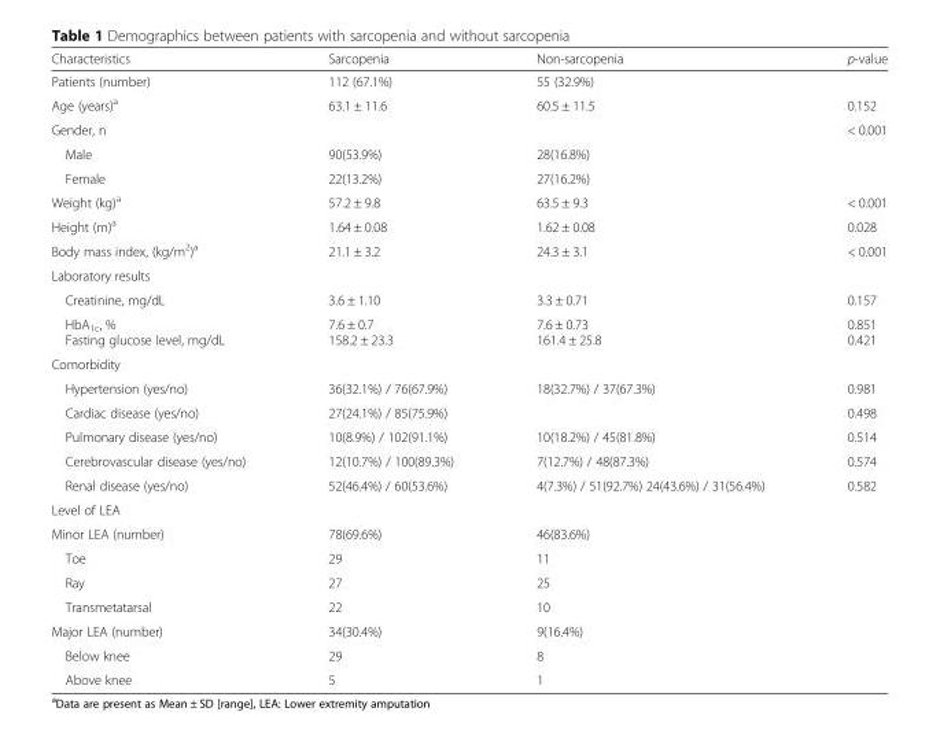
<table><thead><tr><td>Characteristics</td><td>Sarcopenia</td><td>Non-sarcopenia</td><td>p-value</td></tr></thead><tbody><tr><td>Patients (number)</td><td>112 (67.1%)</td><td>55 (32.9%)</td><td></td></tr><tr><td>Age (years)<sup>a</sup></td><td>63.1 ± 11.6</td><td>60.5 ± 11.5</td><td>0.152</td></tr><tr><td>Gender, n</td><td></td><td></td><td>&lt; 0.001</td></tr><tr><td>Male</td><td>90(53.9%)</td><td>28(16.8%)</td><td></td></tr><tr><td>Female</td><td>22(13.2%)</td><td>27(16.2%)</td><td></td></tr><tr><td>Weight (kg)<sup>a</sup></td><td>57.2 ± 9.8</td><td>63.5 ± 9.3</td><td>&lt; 0.001</td></tr><tr><td>Height (m)<sup>a</sup></td><td>1.64 ± 0.08</td><td>1.62 ± 0.08</td><td>0.028</td></tr><tr><td>Body mass index, (kg/m<sup>2</sup>)<sup>a</sup></td><td>21.1 ± 3.2</td><td>24.3 ± 3.1</td><td>&lt; 0.001</td></tr><tr><td colspan="4">Laboratory results</td></tr><tr><td>Creatinine, mg/dL</td><td>3.6 ± 1.10</td><td>3.3 ± 0.71</td><td>0.157</td></tr><tr><td>HbA<sub>1c</sub>, % Fasting glucose level, mg/dL</td><td>7.6 ± 0.7 158.2 ± 23.3</td><td>7.6 ± 0.73 161.4 ± 25.8</td><td>0.851 0.421</td></tr><tr><td colspan="4">Comorbidity</td></tr><tr><td>Hypertension (yes/no)</td><td>36(32.1%) / 76(67.9%)</td><td>18(32.7%) / 37(67.3%)</td><td>0.981</td></tr><tr><td>Cardiac disease (yes/no)</td><td>27(24.1%) / 85(75.9%)</td><td></td><td>0.498</td></tr><tr><td>Pulmonary disease (yes/no)</td><td>10(8.9%) / 102(91.1%)</td><td>10(18.2%) / 45(81.8%)</td><td>0.514</td></tr><tr><td>Cerebrovascular disease (yes/no)</td><td>12(10.7%) / 100(89.3%)</td><td>7(12.7%) / 48(87.3%)</td><td>0.574</td></tr><tr><td>Renal disease (yes/no)</td><td>52(46.4%) / 60(53.6%)</td><td>4(7.3%) / 51(92.7%) 24(43.6%) / 31(56.4%)</td><td>0.582</td></tr><tr><td colspan="4">Level of LEA</td></tr><tr><td>Minor LEA (number)</td><td>78(69.6%)</td><td>46(83.6%)</td><td></td></tr><tr><td>Toe</td><td>29</td><td>11</td><td></td></tr><tr><td>Ray</td><td>27</td><td>25</td><td></td></tr><tr><td>Transmetatarsal</td><td>22</td><td>10</td><td></td></tr><tr><td>Major LEA (number)</td><td>34(30.4%)</td><td>9(16.4%)</td><td></td></tr><tr><td>Below knee</td><td>29</td><td>8</td><td></td></tr><tr><td>Above knee</td><td>5</td><td>1</td><td></td></tr></tbody></table>